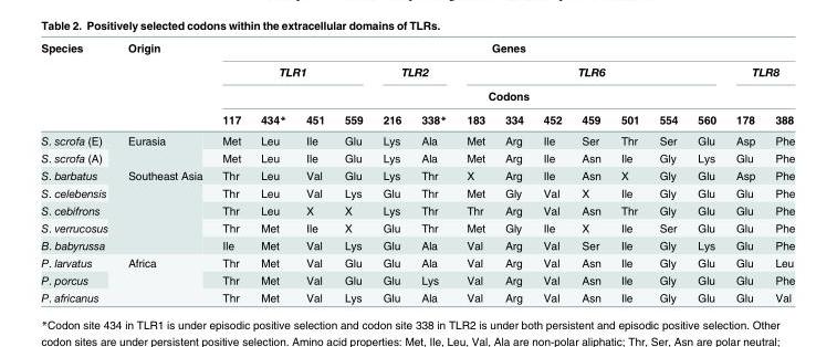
<table><thead><tr><td rowspan="4">Species</td><td rowspan="4">Origin</td><td colspan="15">Genes</td></tr><tr><td colspan="4">TLR1</td><td colspan="2">TLR2</td><td colspan="7">TLR6</td><td colspan="2">TLR8</td></tr><tr><td colspan="15">Codons</td></tr><tr><td>117</td><td>434*</td><td>451</td><td>559</td><td>216</td><td>338*</td><td>183</td><td>334</td><td>452</td><td>459</td><td>501</td><td>554</td><td>560</td><td>178</td><td>388</td></tr></thead><tbody><tr><td>S. scrofa (E)</td><td rowspan="2">Eurasia</td><td>Met</td><td>Leu</td><td>Ile</td><td>Glu</td><td>Lys</td><td>Ala</td><td>Met</td><td>Arg</td><td>Ile</td><td>Ser</td><td>Thr</td><td>Ser</td><td>Glu</td><td>Asp</td><td>Phe</td></tr><tr><td>S. scrofa (A)</td><td>Met</td><td>Leu</td><td>Ile</td><td>Glu</td><td>Lys</td><td>Ala</td><td>Met</td><td>Arg</td><td>Ile</td><td>Asn</td><td>Ile</td><td>Gly</td><td>Lys</td><td>Glu</td><td>Phe</td></tr><tr><td>S. barbatus</td><td rowspan="5">Southeast Asia</td><td>Thr</td><td>Leu</td><td>Val</td><td>Glu</td><td>Lys</td><td>Thr</td><td>X</td><td>Arg</td><td>Ile</td><td>Asn</td><td>X</td><td>Gly</td><td>Glu</td><td>Asp</td><td>Phe</td></tr><tr><td>S. celebensis</td><td>Thr</td><td>Leu</td><td>Val</td><td>Lys</td><td>Glu</td><td>Thr</td><td>Met</td><td>Gly</td><td>Val</td><td>X</td><td>Ile</td><td>Gly</td><td>Glu</td><td>Glu</td><td>Phe</td></tr><tr><td>S. cebifrons</td><td>Thr</td><td>Leu</td><td>X</td><td>X</td><td>Lys</td><td>Thr</td><td>Thr</td><td>Arg</td><td>Val</td><td>Asn</td><td>Thr</td><td>Gly</td><td>Glu</td><td>Glu</td><td>Phe</td></tr><tr><td>S. verrucosus</td><td>Thr</td><td>Met</td><td>Ile</td><td>X</td><td>Glu</td><td>Thr</td><td>Met</td><td>Gly</td><td>Ile</td><td>X</td><td>Ile</td><td>Ser</td><td>Glu</td><td>Glu</td><td>Phe</td></tr><tr><td>B. babyrussa</td><td>Ile</td><td>Met</td><td>Val</td><td>Lys</td><td>Glu</td><td>Ala</td><td>Val</td><td>Arg</td><td>Val</td><td>Ser</td><td>Ile</td><td>Gly</td><td>Lys</td><td>Glu</td><td>Phe</td></tr><tr><td>P. larvatus</td><td rowspan="3">Africa</td><td>Thr</td><td>Met</td><td>Val</td><td>Glu</td><td>Glu</td><td>Ala</td><td>Val</td><td>Arg</td><td>Val</td><td>Asn</td><td>Ile</td><td>Gly</td><td>Glu</td><td>Glu</td><td>Leu</td></tr><tr><td>P. porcus</td><td>Thr</td><td>Met</td><td>Val</td><td>Glu</td><td>Glu</td><td>Lys</td><td>Val</td><td>Arg</td><td>Val</td><td>Asn</td><td>Ile</td><td>Gly</td><td>Glu</td><td>Glu</td><td>Phe</td></tr><tr><td>P. africanus</td><td>Thr</td><td>Met</td><td>Val</td><td>Lys</td><td>Glu</td><td>Ala</td><td>Val</td><td>Arg</td><td>Val</td><td>Asn</td><td>Ile</td><td>Gly</td><td>Glu</td><td>Glu</td><td>Val</td></tr></tbody></table>